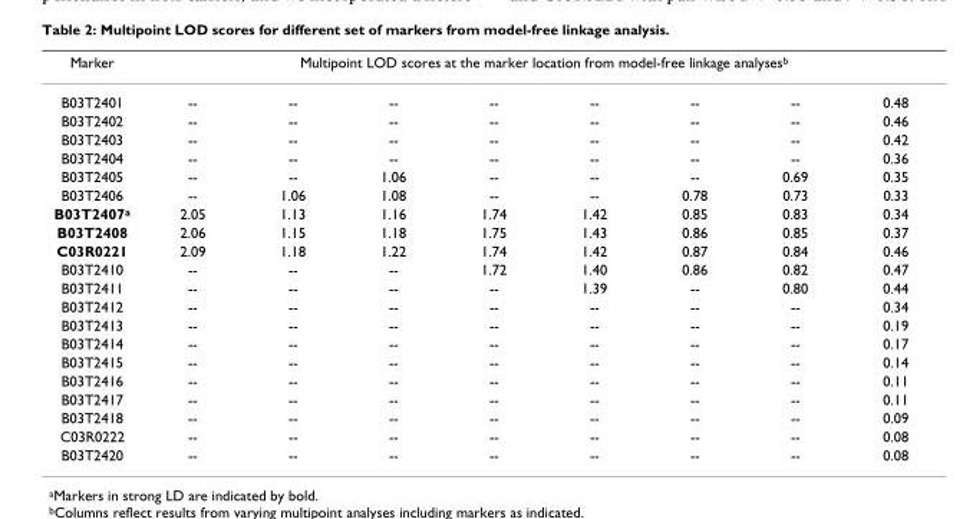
<table><thead><tr><td rowspan="2">Marker B03T2401</td><td colspan="8">Multipoint LOD scores at the marker location from model-free linkage analysesb</td></tr><tr><td>--</td><td>--</td><td>--</td><td>--</td><td>--</td><td>--</td><td>--</td><td>0.48</td></tr></thead><tbody><tr><td>B03T2402</td><td>--</td><td>--</td><td>--</td><td>--</td><td>--</td><td>--</td><td>--</td><td>0.46</td></tr><tr><td>B03T2403</td><td>--</td><td>--</td><td>--</td><td>--</td><td>--</td><td>--</td><td>--</td><td>0.42</td></tr><tr><td>B03T2404</td><td>--</td><td>--</td><td>--</td><td>--</td><td>--</td><td>--</td><td>--</td><td>0.36</td></tr><tr><td>B03T2405</td><td>--</td><td>--</td><td>1.06</td><td>--</td><td>--</td><td>--</td><td>0.69</td><td>0.35</td></tr><tr><td>B03T2406</td><td>--</td><td>1.06</td><td>1.08</td><td>--</td><td>--</td><td>0.78</td><td>0.73</td><td>0.33</td></tr><tr><td>B03T2407a</td><td>2.05</td><td>1.13</td><td>1.16</td><td>1.74</td><td>1.42</td><td>0.85</td><td>0.83</td><td>0.34</td></tr><tr><td>B03T2408</td><td>2.06</td><td>1.15</td><td>1.18</td><td>1.75</td><td>1.43</td><td>0.86</td><td>0.85</td><td>0.37</td></tr><tr><td>C03R0221</td><td>2.09</td><td>1.18</td><td>1.22</td><td>1.74</td><td>1.42</td><td>0.87</td><td>0.84</td><td>0.46</td></tr><tr><td>B03T2410</td><td>--</td><td>--</td><td>--</td><td>1.72</td><td>1.40</td><td>0.86</td><td>0.82</td><td>0.47</td></tr><tr><td>B03T2411</td><td>--</td><td>--</td><td>--</td><td>--</td><td>1.39</td><td>--</td><td>0.80</td><td>0.44</td></tr><tr><td>B03T2412</td><td>--</td><td>--</td><td>--</td><td>--</td><td>--</td><td>--</td><td>--</td><td>0.34</td></tr><tr><td>B03T2413</td><td>--</td><td>--</td><td>--</td><td>--</td><td>--</td><td>--</td><td>--</td><td>0.19</td></tr><tr><td>B03T2414</td><td>--</td><td>--</td><td>--</td><td>--</td><td>--</td><td>--</td><td>--</td><td>0.17</td></tr><tr><td>B03T2415</td><td>--</td><td>--</td><td>--</td><td>--</td><td>--</td><td>--</td><td>--</td><td>0.14</td></tr><tr><td>B03T2416</td><td>--</td><td>--</td><td>--</td><td>--</td><td>--</td><td>--</td><td>--</td><td>0.11</td></tr><tr><td>B03T2417</td><td>--</td><td>--</td><td>--</td><td>--</td><td>--</td><td>--</td><td>--</td><td>0.11</td></tr><tr><td>B03T2418</td><td>--</td><td>--</td><td>--</td><td>--</td><td>--</td><td>--</td><td>--</td><td>0.09</td></tr><tr><td>C03R0222</td><td>--</td><td>--</td><td>--</td><td>--</td><td>--</td><td>--</td><td>--</td><td>0.08</td></tr><tr><td>B03T2420</td><td>--</td><td>--</td><td>--</td><td>--</td><td>--</td><td>--</td><td>--</td><td>0.08</td></tr></tbody></table>